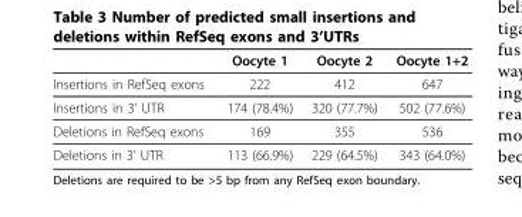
<table><thead><tr><td></td><td>Oocyte 1</td><td>Oocyte 2</td><td>Oocyte 1+2</td></tr></thead><tbody><tr><td>Insertions in RefSeq exons</td><td>222</td><td>412</td><td>647</td></tr><tr><td>Insertions in 3’ UTR</td><td>174 (78.4%)</td><td>320 (77.7%)</td><td>502 (77.6%)</td></tr><tr><td>Deletions in RefSeq exons</td><td>169</td><td>355</td><td>536</td></tr><tr><td>Deletions in 3’ UTR</td><td>113 (66.9%)</td><td>229 (64.5%)</td><td>343 (64.0%)</td></tr></tbody></table>